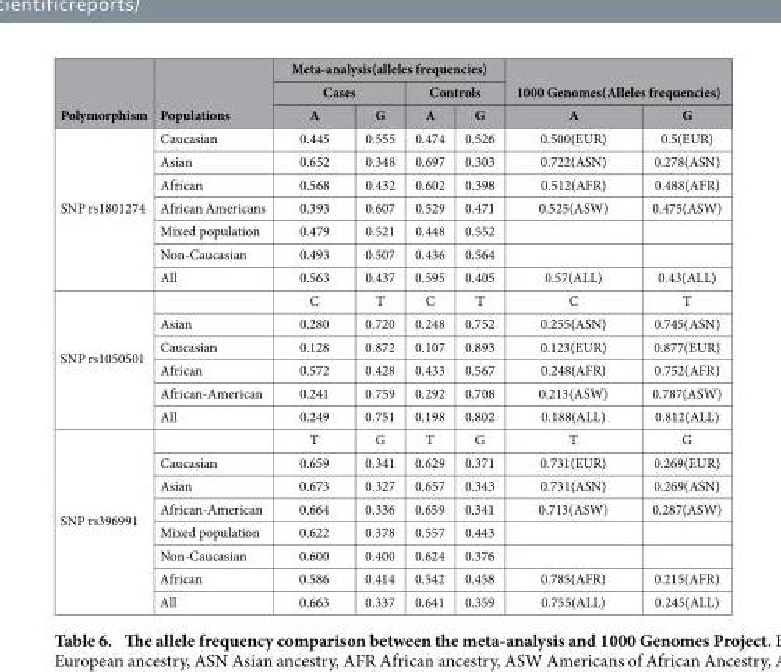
<table><thead><tr><td rowspan="3">Polymorphism</td><td rowspan="3">Populations</td><td colspan="4">Meta-analysis(alleles frequencies)</td><td></td><td></td></tr><tr><td colspan="2">Cases</td><td colspan="2">Controls</td><td colspan="2">1000 Genomes(Alleles frequencies)</td></tr><tr><td>A</td><td>G</td><td>A</td><td>G</td><td>A</td><td>G</td></tr></thead><tbody><tr><td rowspan="7">SNP rs1801274</td><td>Caucasian</td><td>0.445</td><td>0.555</td><td>0.474</td><td>0.526</td><td>0.500(EUR)</td><td>0.5(EUR)</td></tr><tr><td>Asian</td><td>0.652</td><td>0.348</td><td>0.697</td><td>0.303</td><td>0.722(ASN)</td><td>0.278(ASN)</td></tr><tr><td>African</td><td>0.568</td><td>0.432</td><td>0.602</td><td>0.398</td><td>0.512(AFR)</td><td>0.488(AFR)</td></tr><tr><td>African Americans</td><td>0.393</td><td>0.607</td><td>0.529</td><td>0.471</td><td>0.525(ASW)</td><td>0.475(ASW)</td></tr><tr><td>Mixed population</td><td>0.479</td><td>0.521</td><td>0.448</td><td>0.552</td><td></td><td></td></tr><tr><td>Non-Caucasian</td><td>0.493</td><td>0.507</td><td>0.436</td><td>0.564</td><td></td><td></td></tr><tr><td>All</td><td>0.563</td><td>0.437</td><td>0.595</td><td>0.405</td><td>0.57(ALL)</td><td>0.43(ALL)</td></tr><tr><td rowspan="6">SNP rs1050501</td><td></td><td>C</td><td>T</td><td>C</td><td>T</td><td>C</td><td>T</td></tr><tr><td>Asian</td><td>0.280</td><td>0.720</td><td>0.248</td><td>0.752</td><td>0.255(ASN)</td><td>0.745(ASN)</td></tr><tr><td>Caucasian</td><td>0.128</td><td>0.872</td><td>0.107</td><td>0.893</td><td>0.123(EUR)</td><td>0.877(EUR)</td></tr><tr><td>African</td><td>0.572</td><td>0.428</td><td>0.433</td><td>0.567</td><td>0.248(AFR)</td><td>0.752(AFR)</td></tr><tr><td>African-American</td><td>0.241</td><td>0.759</td><td>0.292</td><td>0.708</td><td>0.213(ASW)</td><td>0.787(ASW)</td></tr><tr><td>All</td><td>0.249</td><td>0.751</td><td>0.198</td><td>0.802</td><td>0.188(ALL)</td><td>0.812(ALL)</td></tr><tr><td rowspan="8">SNP rs396991</td><td></td><td>T</td><td>G</td><td>T</td><td>G</td><td>T</td><td>G</td></tr><tr><td>Caucasian</td><td>0.659</td><td>0.341</td><td>0.629</td><td>0.371</td><td>0.731(EUR)</td><td>0.269(EUR)</td></tr><tr><td>Asian</td><td>0.673</td><td>0.327</td><td>0.657</td><td>0.343</td><td>0.731(ASN)</td><td>0.269(ASN)</td></tr><tr><td>African-American</td><td>0.664</td><td>0.336</td><td>0.659</td><td>0.341</td><td>0.713(ASW)</td><td>0.287(ASW)</td></tr><tr><td>Mixed population</td><td>0.622</td><td>0.378</td><td>0.557</td><td>0.443</td><td></td><td></td></tr><tr><td>Non-Caucasian</td><td>0.600</td><td>0.400</td><td>0.624</td><td>0.376</td><td></td><td></td></tr><tr><td>African</td><td>0.586</td><td>0.414</td><td>0.542</td><td>0.458</td><td>0.785(AFR)</td><td>0.215(AFR)</td></tr><tr><td>All</td><td>0.663</td><td>0.337</td><td>0.641</td><td>0.359</td><td>0.755(ALL)</td><td>0.245(ALL)</td></tr></tbody></table>